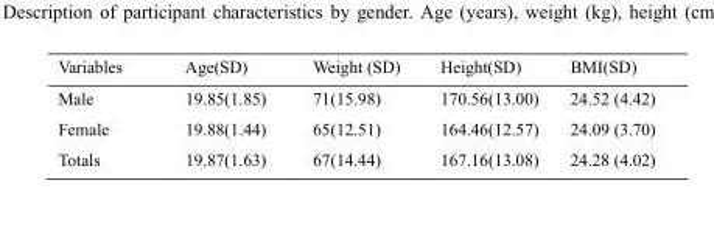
<table><thead><tr><td>Variables</td><td>Age(SD)</td><td>Weight (SD)</td><td>Height(SD)</td><td>BMI(SD)</td></tr></thead><tbody><tr><td>Male</td><td>19.85(1.85)</td><td>71(15.98)</td><td>170.56(13.00)</td><td>24.52 (4.42)</td></tr><tr><td>Female</td><td>19.88(1.44)</td><td>65(12.51)</td><td>164.46(12.57)</td><td>24.09 (3.70)</td></tr><tr><td>Totals</td><td>19.87(1.63)</td><td>67(14.44)</td><td>167.16(13.08)</td><td>24.28 (4.02)</td></tr></tbody></table>